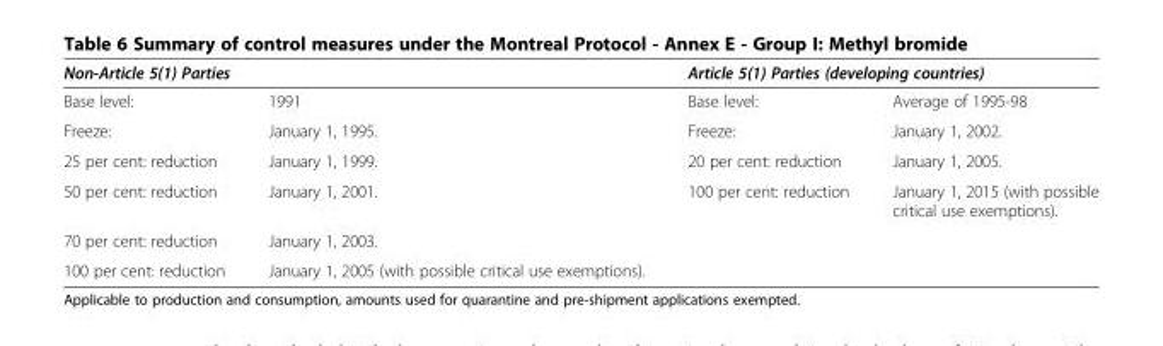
<table><thead><tr><td colspan="2">Non-Article 5(1) Parties</td><td colspan="2">Article 5(1) Parties (developing countries)</td></tr><tr><td>Base level:</td><td>1991</td><td>Base level:</td><td>Average of 1995-98</td></tr></thead><tbody><tr><td>Freeze:</td><td>January 1, 1995.</td><td>Freeze:</td><td>January 1, 2002.</td></tr><tr><td>25 per cent: reduction</td><td>January 1, 1999.</td><td>20 per cent: reduction</td><td>January 1, 2005.</td></tr><tr><td>50 per cent: reduction</td><td>January 1, 2001.</td><td>100 per cent: reduction</td><td>January 1, 2015 (with possible critical use exemptions).</td></tr><tr><td>70 per cent: reduction</td><td>January 1, 2003.</td><td></td><td></td></tr><tr><td>100 per cent: reduction</td><td>January 1, 2005 (with possible critical use exemptions).</td><td></td><td></td></tr></tbody></table>